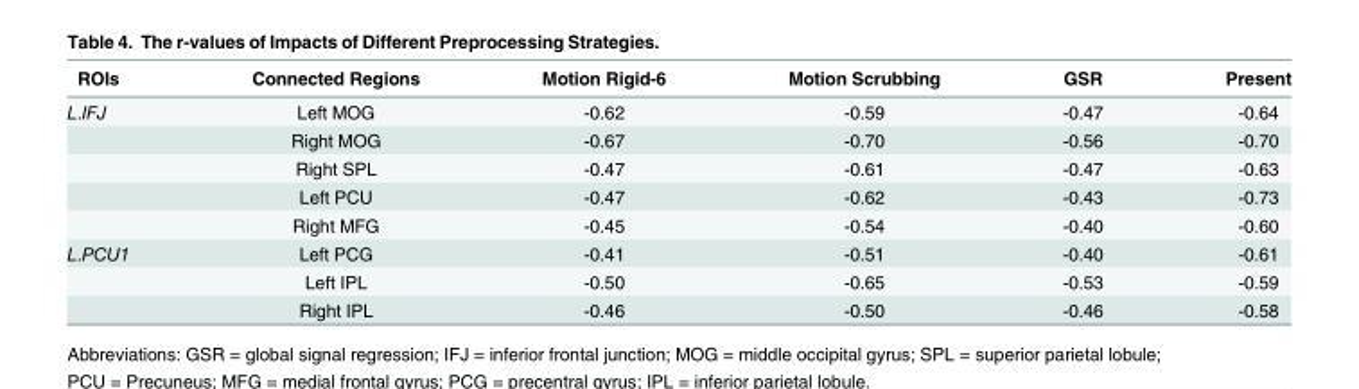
<table><thead><tr><td>ROIs</td><td>Connected Regions</td><td>Motion Rigid-6</td><td>Motion Scrubbing</td><td>GSR</td><td>Present</td></tr></thead><tbody><tr><td rowspan="5">L.IFJ</td><td>Left MOG</td><td>-0.62</td><td>-0.59</td><td>-0.47</td><td>-0.64</td></tr><tr><td>Right MOG</td><td>-0.67</td><td>-0.70</td><td>-0.56</td><td>-0.70</td></tr><tr><td>Right SPL</td><td>-0.47</td><td>-0.61</td><td>-0.47</td><td>-0.63</td></tr><tr><td>Left PCU</td><td>-0.47</td><td>-0.62</td><td>-0.43</td><td>-0.73</td></tr><tr><td>Right MFG</td><td>-0.45</td><td>-0.54</td><td>-0.40</td><td>-0.60</td></tr><tr><td rowspan="3">L.PCU1</td><td>Left PCG</td><td>-0.41</td><td>-0.51</td><td>-0.40</td><td>-0.61</td></tr><tr><td>Left IPL</td><td>-0.50</td><td>-0.65</td><td>-0.53</td><td>-0.59</td></tr><tr><td>Right IPL</td><td>-0.46</td><td>-0.50</td><td>-0.46</td><td>-0.58</td></tr></tbody></table>